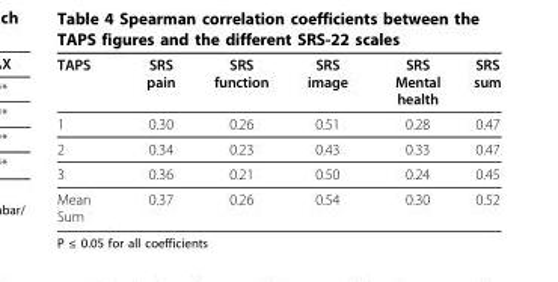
<table><thead><tr><td>TAPS</td><td>SRS pain</td><td>SRS function</td><td>SRS image</td><td>SRS Mental health</td><td>SRS sum</td></tr></thead><tbody><tr><td>1</td><td>0.30</td><td>0.26</td><td>0.51</td><td>0.28</td><td>0.47</td></tr><tr><td>2</td><td>0.34</td><td>0.23</td><td>0.43</td><td>0.33</td><td>0.47</td></tr><tr><td>3</td><td>0.36</td><td>0.21</td><td>0.50</td><td>0.24</td><td>0.45</td></tr><tr><td>Mean Sum</td><td>0.37</td><td>0.26</td><td>0.54</td><td>0.30</td><td>0.52</td></tr></tbody></table>